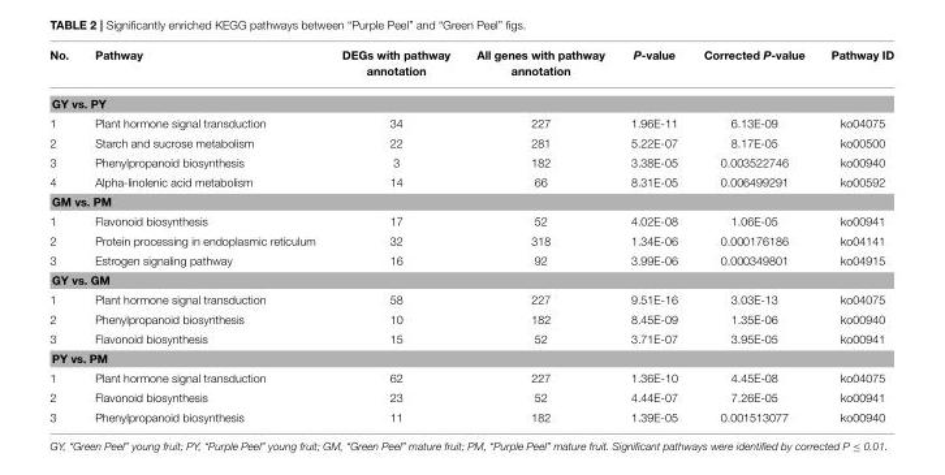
<table><thead><tr><td>No.</td><td>Pathway</td><td>DEGs with pathway annotation</td><td>All genes with pathway annotation</td><td>P-value</td><td>Corrected P-value</td><td>Pathway ID</td></tr></thead><tbody><tr><td colspan="7">GY vs. PY</td></tr><tr><td>1</td><td>Plant hormone signal transduction</td><td>34</td><td>227</td><td>1.96E-11</td><td>6.13E-09</td><td>ko04075</td></tr><tr><td>2</td><td>Starch and sucrose metabolism</td><td>22</td><td>281</td><td>5.22E-07</td><td>8.17E-05</td><td>ko00500</td></tr><tr><td>3</td><td>Phenylpropanoid biosynthesis</td><td>3</td><td>182</td><td>3.38E-05</td><td>0.003522746</td><td>ko00940</td></tr><tr><td>4</td><td>Alpha-linolenic acid metabolism</td><td>14</td><td>66</td><td>8.31E-05</td><td>0.006499291</td><td>ko00592</td></tr><tr><td colspan="7">GM vs. PM</td></tr><tr><td>1</td><td>Flavonoid biosynthesis</td><td>17</td><td>52</td><td>4.02E-08</td><td>1.06E-05</td><td>ko00941</td></tr><tr><td>2</td><td>Protein processing in endoplasmic reticulum</td><td>32</td><td>318</td><td>1.34E-06</td><td>0.000176186</td><td>ko04141</td></tr><tr><td>3</td><td>Estrogen signaling pathway</td><td>16</td><td>92</td><td>3.99E-06</td><td>0.000349801</td><td>ko04915</td></tr><tr><td colspan="7">GY vs. GM</td></tr><tr><td>1</td><td>Plant hormone signal transduction</td><td>58</td><td>227</td><td>9.51E-16</td><td>3.03E-13</td><td>ko04075</td></tr><tr><td>2</td><td>Phenylpropanoid biosynthesis</td><td>10</td><td>182</td><td>8.45E-09</td><td>1.35E-06</td><td>ko00940</td></tr><tr><td>3</td><td>Flavonoid biosynthesis</td><td>15</td><td>52</td><td>3.71E-07</td><td>3.95E-05</td><td>ko00941</td></tr><tr><td colspan="7">PY vs. PM</td></tr><tr><td>1</td><td>Plant hormone signal transduction</td><td>62</td><td>227</td><td>1.36E-10</td><td>4.45E-08</td><td>ko04075</td></tr><tr><td>2</td><td>Flavonoid biosynthesis</td><td>23</td><td>52</td><td>4.44E-07</td><td>7.26E-05</td><td>ko00941</td></tr><tr><td>3</td><td>Phenylpropanoid biosynthesis</td><td>11</td><td>182</td><td>1.39E-05</td><td>0.001513077</td><td>ko00940</td></tr></tbody></table>